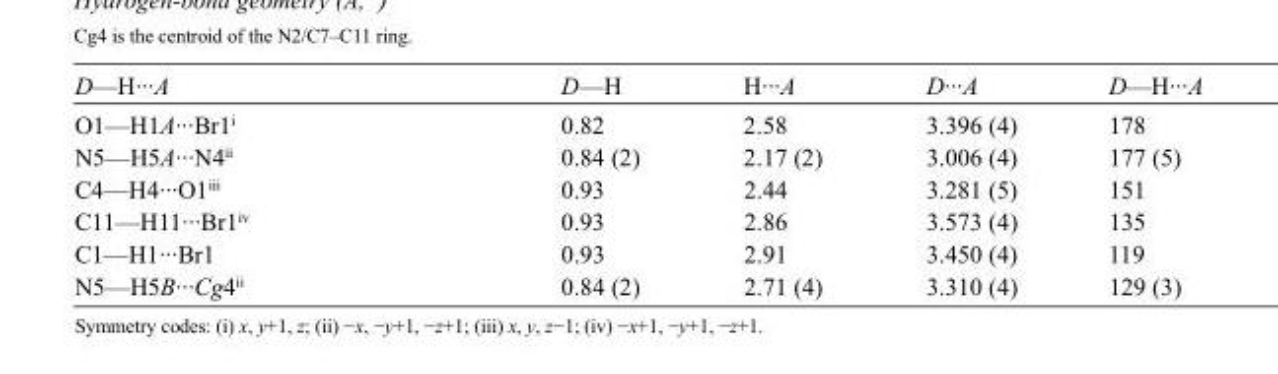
<table><tbody><tr><td>D—H···A</td><td>D—H</td><td>H···A</td><td>D···A</td><td>D—H···A</td></tr><tr><td>O1—H1A···Br1<sup>i</sup></td><td>0.82</td><td>2.58</td><td>3.396 (4)</td><td>178</td></tr><tr><td>N5—H5A···N4<sup>ii</sup></td><td>0.84 (2)</td><td>2.17 (2)</td><td>3.006 (4)</td><td>177 (5)</td></tr><tr><td>C4—H4···O1<sup>iii</sup></td><td>0.93</td><td>2.44</td><td>3.281 (5)</td><td>151</td></tr><tr><td>C11—H11···Br1<sup>iv</sup></td><td>0.93</td><td>2.86</td><td>3.573 (4)</td><td>135</td></tr><tr><td>C1—H1···Br1</td><td>0.93</td><td>2.91</td><td>3.450 (4)</td><td>119</td></tr><tr><td>N5—H5B···Cg4<sup>ii</sup></td><td>0.84 (2)</td><td>2.71 (4)</td><td>3.310 (4)</td><td>129 (3)</td></tr></tbody></table>